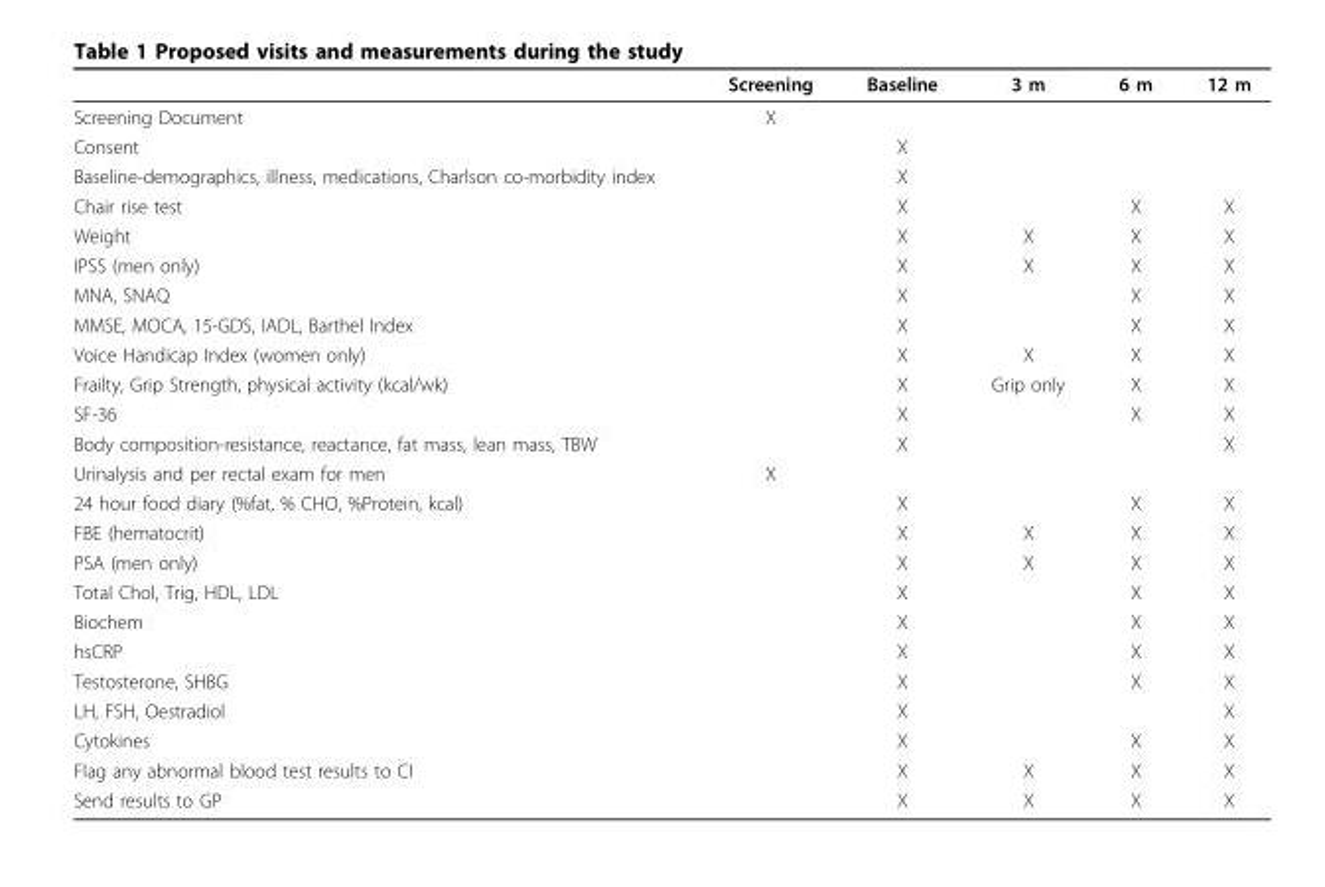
<table><thead><tr><td></td><td>Screening</td><td>Baseline</td><td>3 m</td><td>6 m</td><td>12 m</td></tr></thead><tbody><tr><td>Screening Document</td><td>X</td><td></td><td></td><td></td><td></td></tr><tr><td>Consent</td><td></td><td>X</td><td></td><td></td><td></td></tr><tr><td>Baseline-demographics, illness, medications, Charlson co-morbidity index</td><td></td><td>X</td><td></td><td></td><td></td></tr><tr><td>Chair rise test</td><td></td><td>X</td><td></td><td>X</td><td>X</td></tr><tr><td>Weight</td><td></td><td>X</td><td>X</td><td>X</td><td>X</td></tr><tr><td>IPSS (men only)</td><td></td><td>X</td><td>X</td><td>X</td><td>X</td></tr><tr><td>MNA, SNAQ</td><td></td><td>X</td><td></td><td>X</td><td>X</td></tr><tr><td>MMSE, MOCA, 15-GDS, IADL, Barthel Index</td><td></td><td>X</td><td></td><td>X</td><td>X</td></tr><tr><td>Voice Handicap Index (women only)</td><td></td><td>X</td><td>X</td><td>X</td><td>X</td></tr><tr><td>Frailty, Grip Strength, physical activity (kcal/wk)</td><td></td><td>X</td><td>Grip only</td><td>X</td><td>X</td></tr><tr><td>SF-36</td><td></td><td>X</td><td></td><td>X</td><td>X</td></tr><tr><td>Body composition-resistance, reactance, fat mass, lean mass, TBW</td><td></td><td>X</td><td></td><td></td><td>X</td></tr><tr><td>Urinalysis and per rectal exam for men</td><td>X</td><td></td><td></td><td></td><td></td></tr><tr><td>24 hour food diary (%fat, % CHO, %Protein, kcal)</td><td></td><td>X</td><td></td><td>X</td><td>X</td></tr><tr><td>FBE (hematocrit)</td><td></td><td>X</td><td>X</td><td>X</td><td>X</td></tr><tr><td>PSA (men only)</td><td></td><td>X</td><td>X</td><td>X</td><td>X</td></tr><tr><td>Total Chol, Trig, HDL, LDL</td><td></td><td>X</td><td></td><td>X</td><td>X</td></tr><tr><td>Biochem</td><td></td><td>X</td><td></td><td>X</td><td>X</td></tr><tr><td>hsCRP</td><td></td><td>X</td><td></td><td>X</td><td>X</td></tr><tr><td>Testosterone, SHBG</td><td></td><td>X</td><td></td><td>X</td><td>X</td></tr><tr><td>LH, FSH, Oestradiol</td><td></td><td>X</td><td></td><td></td><td>X</td></tr><tr><td>Cytokines</td><td></td><td>X</td><td></td><td>X</td><td>X</td></tr><tr><td>Flag any abnormal blood test results to CI</td><td></td><td>X</td><td>X</td><td>X</td><td>X</td></tr><tr><td>Send results to GP</td><td></td><td>X</td><td>X</td><td>X</td><td>X</td></tr></tbody></table>